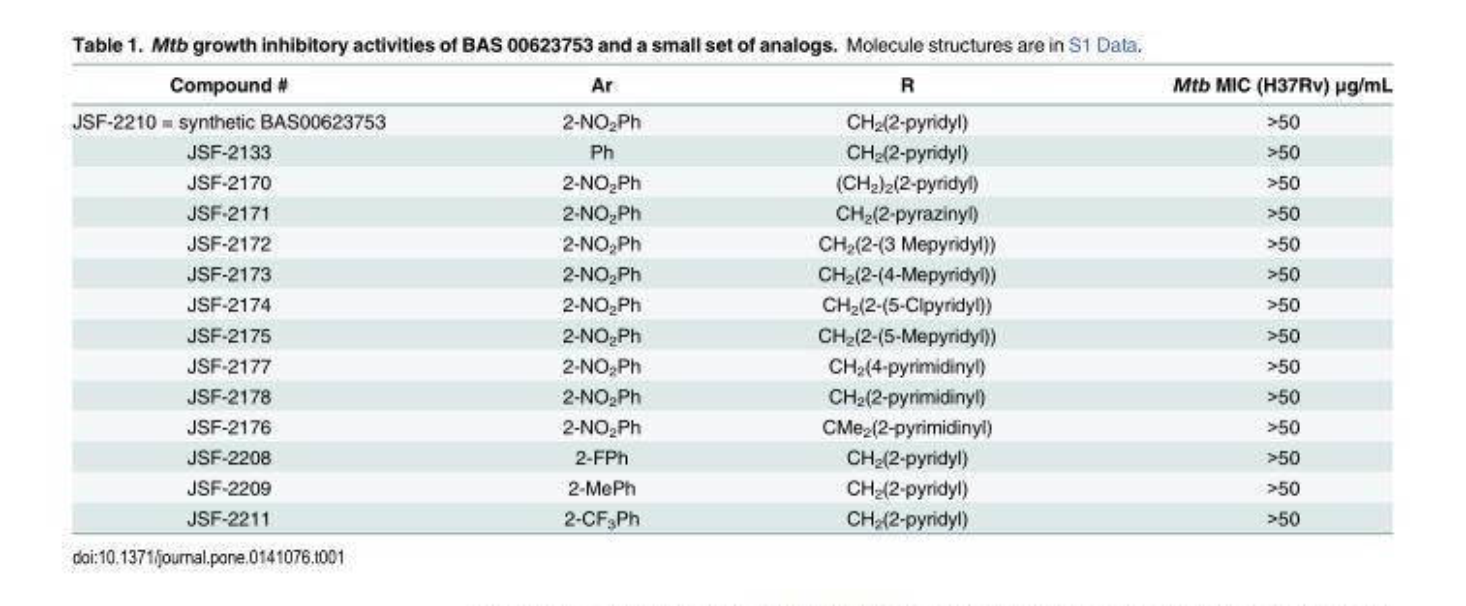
<table><thead><tr><td>Compound #</td><td>Ar</td><td>R</td><td>Mtb MIC (H37Rv) μg/mL</td></tr></thead><tbody><tr><td>JSF-2210 = synthetic BAS00623753</td><td>2-NO<sub>2</sub>Ph</td><td>CH<sub>2</sub>(2-pyridyl)</td><td>&gt;50</td></tr><tr><td>JSF-2133</td><td>Ph</td><td>CH<sub>2</sub>(2-pyridyl)</td><td>&gt;50</td></tr><tr><td>JSF-2170</td><td>2-NO<sub>2</sub>Ph</td><td>(CH<sub>2</sub>)<sub>2</sub>(2-pyridyl)</td><td>&gt;50</td></tr><tr><td>JSF-2171</td><td>2-NO<sub>2</sub>Ph</td><td>CH<sub>2</sub>(2-pyrazinyl)</td><td>&gt;50</td></tr><tr><td>JSF-2172</td><td>2-NO<sub>2</sub>Ph</td><td>CH<sub>2</sub>(2-(3 Mepyridyl))</td><td>&gt;50</td></tr><tr><td>JSF-2173</td><td>2-NO<sub>2</sub>Ph</td><td>CH<sub>2</sub>(2-(4-Mepyridyl))</td><td>&gt;50</td></tr><tr><td>JSF-2174</td><td>2-NO<sub>2</sub>Ph</td><td>CH<sub>2</sub>(2-(5-Clpyridyl))</td><td>&gt;50</td></tr><tr><td>JSF-2175</td><td>2-NO<sub>2</sub>Ph</td><td>CH<sub>2</sub>(2-(5-Mepyridyl))</td><td>&gt;50</td></tr><tr><td>JSF-2177</td><td>2-NO<sub>2</sub>Ph</td><td>CH<sub>2</sub>(4-pyrimidinyl)</td><td>&gt;50</td></tr><tr><td>JSF-2178</td><td>2-NO<sub>2</sub>Ph</td><td>CH<sub>2</sub>(2-pyrimidinyl)</td><td>&gt;50</td></tr><tr><td>JSF-2176</td><td>2-NO<sub>2</sub>Ph</td><td>CMe<sub>2</sub>(2-pyrimidinyl)</td><td>&gt;50</td></tr><tr><td>JSF-2208</td><td>2-FPh</td><td>CH<sub>2</sub>(2-pyridyl)</td><td>&gt;50</td></tr><tr><td>JSF-2209</td><td>2-MePh</td><td>CH<sub>2</sub>(2-pyridyl)</td><td>&gt;50</td></tr><tr><td>JSF-2211</td><td>2-CF<sub>3</sub>Ph</td><td>CH<sub>2</sub>(2-pyridyl)</td><td>&gt;50</td></tr></tbody></table>